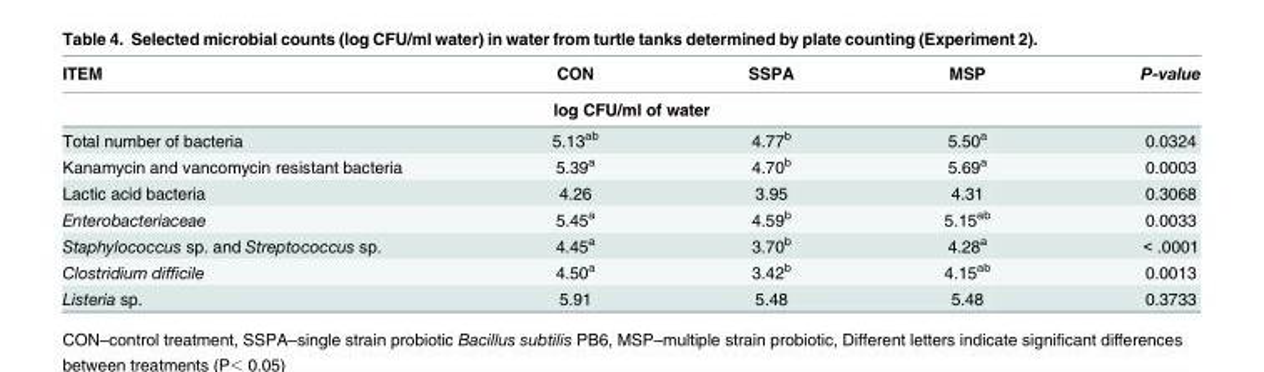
<table><thead><tr><td>ITEM</td><td>CON</td><td>SSPA</td><td>MSP</td><td>P-value</td></tr><tr><td colspan="5">log CFU/ml of water</td></tr></thead><tbody><tr><td>Total number of bacteria</td><td>5.13<sup>ab</sup></td><td>4.77<sup>b</sup></td><td>5.50<sup>a</sup></td><td>0.0324</td></tr><tr><td>Kanamycin and vancomycin resistant bacteria</td><td>5.39<sup>a</sup></td><td>4.70<sup>b</sup></td><td>5.69<sup>a</sup></td><td>0.0003</td></tr><tr><td>Lactic acid bacteria</td><td>4.26</td><td>3.95</td><td>4.31</td><td>0.3068</td></tr><tr><td>Enterobacteriaceae</td><td>5.45<sup>a</sup></td><td>4.59<sup>b</sup></td><td>5.15<sup>ab</sup></td><td>0.0033</td></tr><tr><td>Staphylococcus sp. and Streptococcus sp.</td><td>4.45<sup>a</sup></td><td>3.70<sup>b</sup></td><td>4.28<sup>a</sup></td><td>&lt; .0001</td></tr><tr><td>Clostridium difficile</td><td>4.50<sup>a</sup></td><td>3.42<sup>b</sup></td><td>4.15<sup>ab</sup></td><td>0.0013</td></tr><tr><td>Listeria sp.</td><td>5.91</td><td>5.48</td><td>5.48</td><td>0.3733</td></tr></tbody></table>